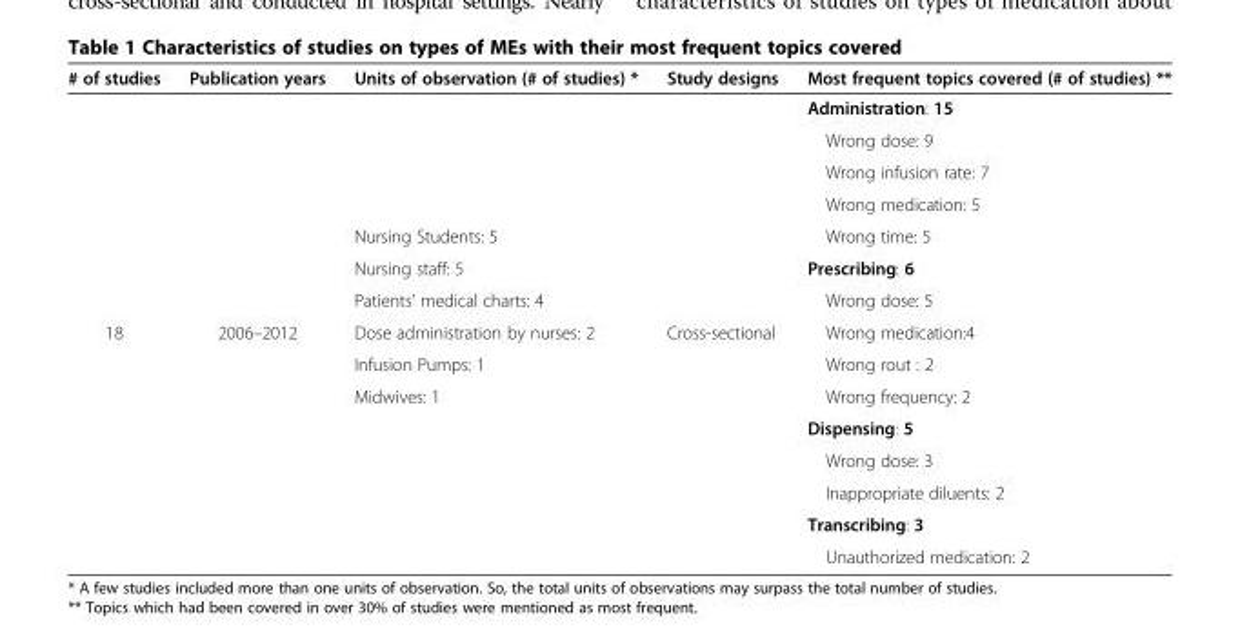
<table><thead><tr><td># of studies</td><td>Publication years</td><td>Units of observation (# of studies) *</td><td>Study designs</td><td>Most frequent topics covered (# of studies) **</td></tr></thead><tbody><tr><td></td><td></td><td></td><td></td><td>Administration: 15</td></tr><tr><td></td><td></td><td></td><td></td><td>Wrong dose: 9</td></tr><tr><td></td><td></td><td></td><td></td><td>Wrong infusion rate: 7</td></tr><tr><td></td><td></td><td></td><td></td><td>Wrong medication: 5</td></tr><tr><td></td><td></td><td>Nursing Students: 5</td><td></td><td>Wrong time: 5</td></tr><tr><td></td><td></td><td>Nursing staff: 5</td><td></td><td>Prescribing: 6</td></tr><tr><td></td><td></td><td>Patients’ medical charts: 4</td><td></td><td>Wrong dose: 5</td></tr><tr><td rowspan="8">18</td><td>2006–2012</td><td>Dose administration by nurses: 2</td><td>Cross-sectional</td><td>Wrong medication:4</td></tr><tr><td></td><td>Infusion Pumps: 1</td><td></td><td>Wrong rout : 2</td></tr><tr><td></td><td>Midwives: 1</td><td></td><td>Wrong frequency: 2</td></tr><tr><td></td><td></td><td></td><td>Dispensing: 5</td></tr><tr><td></td><td></td><td></td><td>Wrong dose: 3</td></tr><tr><td></td><td></td><td></td><td>Inappropriate diluents: 2</td></tr><tr><td></td><td></td><td></td><td>Transcribing: 3</td></tr><tr><td></td><td></td><td></td><td>Unauthorized medication: 2</td></tr></tbody></table>